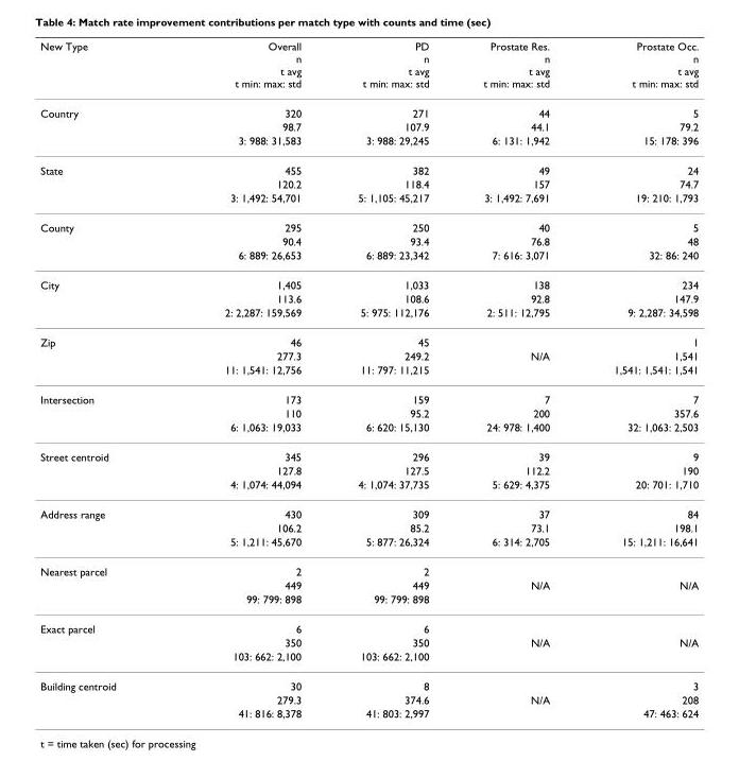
<table><thead><tr><td>New Type</td><td>Overall n t avg t min: max: std</td><td>PD n t avg t min: max: std</td><td>Prostate Res. n t avg t min: max: std</td><td>Prostate Occ. n t avg t min: max: std</td></tr></thead><tbody><tr><td rowspan="3">Country</td><td>320</td><td>271</td><td>44</td><td>5</td></tr><tr><td>98.7</td><td>107.9</td><td>44.1</td><td>79.2</td></tr><tr><td>3: 988: 31,583</td><td>3: 988: 29,245</td><td>6: 131: 1,942</td><td>15: 178: 396</td></tr><tr><td rowspan="3">State</td><td>455</td><td>382</td><td>49</td><td>24</td></tr><tr><td>120.2</td><td>118.4</td><td>157</td><td>74.7</td></tr><tr><td>3: 1,492: 54,701</td><td>5: 1,105: 45,217</td><td>3: 1,492: 7,691</td><td>19: 210: 1,793</td></tr><tr><td rowspan="3">County</td><td>295</td><td>250</td><td>40</td><td>5</td></tr><tr><td>90.4</td><td>93.4</td><td>76.8</td><td>48</td></tr><tr><td>6: 889: 26,653</td><td>6: 889: 23,342</td><td>7: 616: 3,071</td><td>32: 86: 240</td></tr><tr><td rowspan="3">City</td><td>1,405</td><td>1,033</td><td>138</td><td>234</td></tr><tr><td>113.6</td><td>108.6</td><td>92.8</td><td>147.9</td></tr><tr><td>2: 2,287: 159,569</td><td>5: 975: 112,176</td><td>2: 511: 12,795</td><td>9: 2,287: 34,598</td></tr><tr><td rowspan="3">Zip</td><td>46</td><td>45</td><td></td><td>1</td></tr><tr><td>277.3</td><td>249.2</td><td>N/A</td><td>1,541</td></tr><tr><td>11: 1,541: 12,756</td><td>11: 797: 11,215</td><td></td><td>1,541: 1,541: 1,541</td></tr><tr><td rowspan="3">Intersection</td><td>173</td><td>159</td><td>7</td><td>7</td></tr><tr><td>110</td><td>95.2</td><td>200</td><td>357.6</td></tr><tr><td>6: 1,063: 19,033</td><td>6: 620: 15,130</td><td>24: 978: 1,400</td><td>32: 1,063: 2,503</td></tr><tr><td rowspan="3">Street centroid</td><td>345</td><td>296</td><td>39</td><td>9</td></tr><tr><td>127.8</td><td>127.5</td><td>112.2</td><td>190</td></tr><tr><td>4: 1,074: 44,094</td><td>4: 1,074: 37,735</td><td>5: 629: 4,375</td><td>20: 701: 1,710</td></tr><tr><td rowspan="3">Address range</td><td>430</td><td>309</td><td>37</td><td>84</td></tr><tr><td>106.2</td><td>85.2</td><td>73.1</td><td>198.1</td></tr><tr><td>5: 1,211: 45,670</td><td>5: 877: 26,324</td><td>6: 314: 2,705</td><td>15: 1,211: 16,641</td></tr><tr><td rowspan="3">Nearest parcel</td><td>2</td><td>2</td><td></td><td></td></tr><tr><td>449</td><td>449</td><td>N/A</td><td>N/A</td></tr><tr><td>99: 799: 898</td><td>99: 799: 898</td><td></td><td></td></tr><tr><td rowspan="3">Exact parcel</td><td>6</td><td>6</td><td></td><td></td></tr><tr><td>350</td><td>350</td><td>N/A</td><td>N/A</td></tr><tr><td>103: 662: 2,100</td><td>103: 662: 2,100</td><td></td><td></td></tr><tr><td rowspan="3">Building centroid</td><td>30</td><td>8</td><td></td><td>3</td></tr><tr><td>279.3</td><td>374.6</td><td>N/A</td><td>208</td></tr><tr><td>41: 816: 8,378</td><td>41: 803: 2,997</td><td></td><td>47: 463: 624</td></tr></tbody></table>